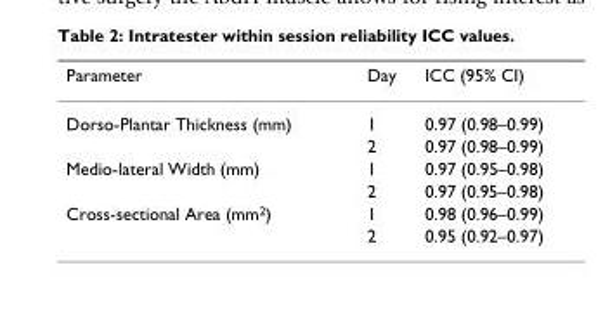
<table><thead><tr><td>Parameter</td><td>Day</td><td>ICC (95% CI)</td></tr></thead><tbody><tr><td rowspan="2">Dorso-Plantar Thickness (mm)</td><td>1</td><td>0.97 (0.98–0.99)</td></tr><tr><td>2</td><td>0.97 (0.98–0.99)</td></tr><tr><td rowspan="2">Medio-lateral Width (mm)</td><td>1</td><td>0.97 (0.95–0.98)</td></tr><tr><td>2</td><td>0.97 (0.95–0.98)</td></tr><tr><td rowspan="2">Cross-sectional Area (mm<sup>2</sup>)</td><td>1</td><td>0.98 (0.96–0.99)</td></tr><tr><td>2</td><td>0.95 (0.92–0.97)</td></tr></tbody></table>